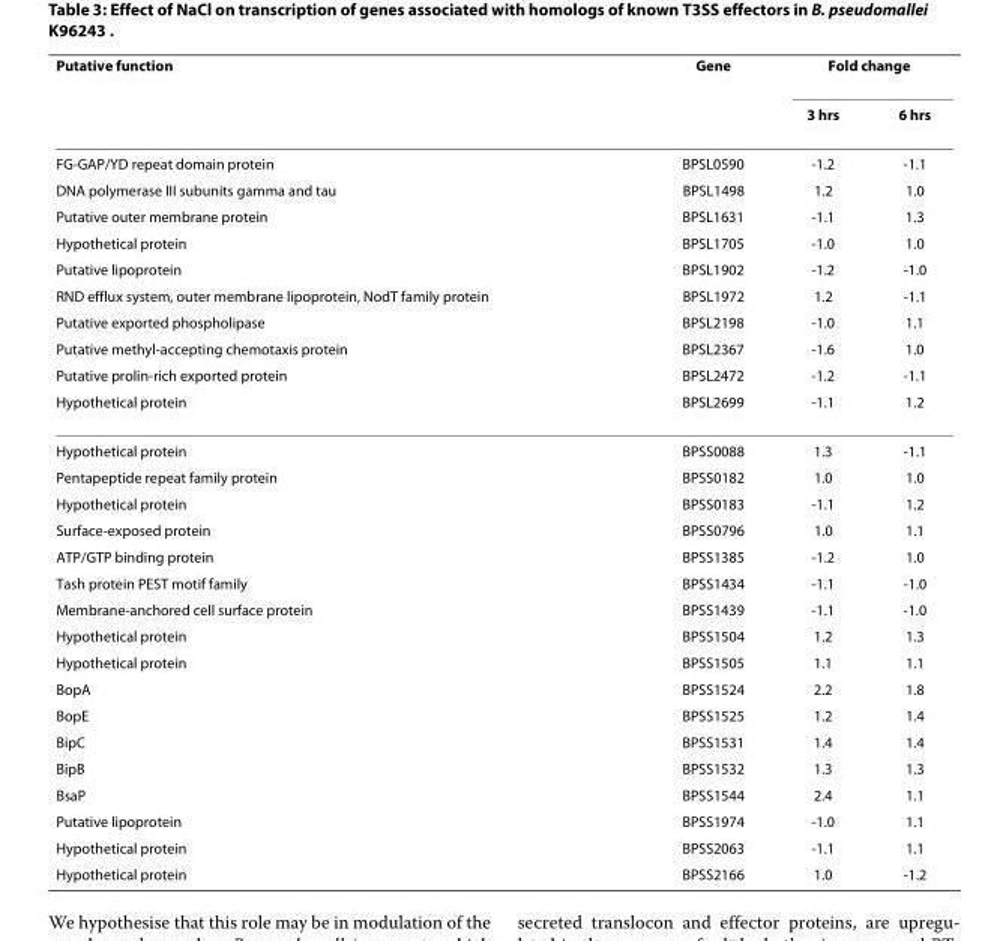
<table><thead><tr><td rowspan="2">Putative function</td><td rowspan="2">Gene</td><td colspan="2">Fold change</td></tr><tr><td>3 hrs</td><td>6 hrs</td></tr></thead><tbody><tr><td>FG-GAP/YD repeat domain protein</td><td>BPSL0590</td><td>-1.2</td><td>-1.1</td></tr><tr><td>DNA polymerase III subunits gamma and tau</td><td>BPSL1498</td><td>1.2</td><td>1.0</td></tr><tr><td>Putative outer membrane protein</td><td>BPSL1631</td><td>-1.1</td><td>1.3</td></tr><tr><td>Hypothetical protein</td><td>BPSL1705</td><td>-1.0</td><td>1.0</td></tr><tr><td>Putative lipoprotein</td><td>BPSL1902</td><td>-1.2</td><td>-1.0</td></tr><tr><td>RND efflux system, outer membrane lipoprotein, NodT family protein</td><td>BPSL1972</td><td>1.2</td><td>-1.1</td></tr><tr><td>Putative exported phospholipase</td><td>BPSL2198</td><td>-1.0</td><td>1.1</td></tr><tr><td>Putative methyl-accepting chemotaxis protein</td><td>BPSL2367</td><td>-1.6</td><td>1.0</td></tr><tr><td>Putative prolin-rich exported protein</td><td>BPSL2472</td><td>-1.2</td><td>-1.1</td></tr><tr><td>Hypothetical protein</td><td>BPSL2699</td><td>-1.1</td><td>1.2</td></tr><tr><td>Hypothetical protein</td><td>BPSS0088</td><td>1.3</td><td>-1.1</td></tr><tr><td>Pentapeptide repeat family protein</td><td>BPSS0182</td><td>1.0</td><td>1.0</td></tr><tr><td>Hypothetical protein</td><td>BPSS0183</td><td>-1.1</td><td>1.2</td></tr><tr><td>Surface-exposed protein</td><td>BPSS0796</td><td>1.0</td><td>1.1</td></tr><tr><td>ATP/GTP binding protein</td><td>BPSS1385</td><td>-1.2</td><td>1.0</td></tr><tr><td>Tash protein PEST motif family</td><td>BPSS1434</td><td>-1.1</td><td>-1.0</td></tr><tr><td>Membrane-anchored cell surface protein</td><td>BPSS1439</td><td>-1.1</td><td>-1.0</td></tr><tr><td>Hypothetical protein</td><td>BPSS1504</td><td>1.2</td><td>1.3</td></tr><tr><td>Hypothetical protein</td><td>BPSS1505</td><td>1.1</td><td>1.1</td></tr><tr><td>BopA</td><td>BPSS1524</td><td>2.2</td><td>1.8</td></tr><tr><td>BopE</td><td>BPSS1525</td><td>1.2</td><td>1.4</td></tr><tr><td>BipC</td><td>BPSS1531</td><td>1.4</td><td>1.4</td></tr><tr><td>BipB</td><td>BPSS1532</td><td>1.3</td><td>1.3</td></tr><tr><td>BsaP</td><td>BPSS1544</td><td>2.4</td><td>1.1</td></tr><tr><td>Putative lipoprotein</td><td>BPSS1974</td><td>-1.0</td><td>1.1</td></tr><tr><td>Hypothetical protein</td><td>BPSS2063</td><td>-1.1</td><td>1.1</td></tr><tr><td>Hypothetical protein</td><td>BPSS2166</td><td>1.0</td><td>-1.2</td></tr></tbody></table>